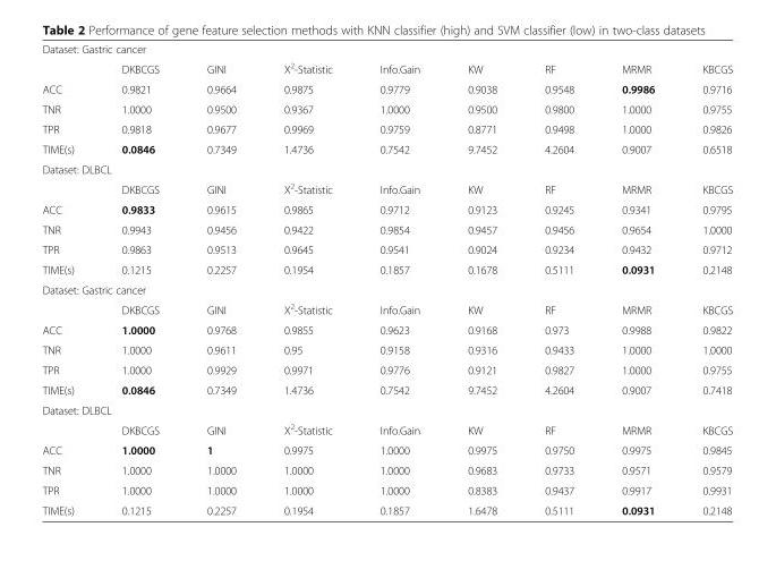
<table><tbody><tr><td colspan="9">Dataset: Gastric cancer</td></tr><tr><td></td><td>DKBCGS</td><td>GINI</td><td>Χ<sup>2</sup>-Statistic</td><td>Info.Gain</td><td>KW</td><td>RF</td><td>MRMR</td><td>KBCGS</td></tr><tr><td>ACC</td><td>0.9821</td><td>0.9664</td><td>0.9875</td><td>0.9779</td><td>0.9038</td><td>0.9548</td><td>0.9986</td><td>0.9716</td></tr><tr><td>TNR</td><td>1.0000</td><td>0.9500</td><td>0.9367</td><td>1.0000</td><td>0.9500</td><td>0.9800</td><td>1.0000</td><td>0.9755</td></tr><tr><td>TPR</td><td>0.9818</td><td>0.9677</td><td>0.9969</td><td>0.9759</td><td>0.8771</td><td>0.9498</td><td>1.0000</td><td>0.9826</td></tr><tr><td>TIME(s)</td><td>0.0846</td><td>0.7349</td><td>1.4736</td><td>0.7542</td><td>9.7452</td><td>4.2604</td><td>0.9007</td><td>0.6518</td></tr><tr><td colspan="9">Dataset: DLBCL</td></tr><tr><td></td><td>DKBCGS</td><td>GINI</td><td>Χ<sup>2</sup>-Statistic</td><td>Info.Gain</td><td>KW</td><td>RF</td><td>MRMR</td><td>KBCGS</td></tr><tr><td>ACC</td><td>0.9833</td><td>0.9615</td><td>0.9865</td><td>0.9712</td><td>0.9123</td><td>0.9245</td><td>0.9341</td><td>0.9795</td></tr><tr><td>TNR</td><td>0.9943</td><td>0.9456</td><td>0.9422</td><td>0.9854</td><td>0.9457</td><td>0.9456</td><td>0.9654</td><td>1.0000</td></tr><tr><td>TPR</td><td>0.9863</td><td>0.9513</td><td>0.9645</td><td>0.9541</td><td>0.9024</td><td>0.9234</td><td>0.9432</td><td>0.9712</td></tr><tr><td>TIME(s)</td><td>0.1215</td><td>0.2257</td><td>0.1954</td><td>0.1857</td><td>0.1678</td><td>0.5111</td><td>0.0931</td><td>0.2148</td></tr><tr><td colspan="9">Dataset: Gastric cancer</td></tr><tr><td></td><td>DKBCGS</td><td>GINI</td><td>Χ<sup>2</sup>-Statistic</td><td>Info.Gain</td><td>KW</td><td>RF</td><td>MRMR</td><td>KBCGS</td></tr><tr><td>ACC</td><td>1.0000</td><td>0.9768</td><td>0.9855</td><td>0.9623</td><td>0.9168</td><td>0.973</td><td>0.9988</td><td>0.9822</td></tr><tr><td>TNR</td><td>1.0000</td><td>0.9611</td><td>0.95</td><td>0.9158</td><td>0.9316</td><td>0.9433</td><td>1.0000</td><td>1.0000</td></tr><tr><td>TPR</td><td>1.0000</td><td>0.9929</td><td>0.9971</td><td>0.9776</td><td>0.9121</td><td>0.9827</td><td>1.0000</td><td>0.9755</td></tr><tr><td>TIME(s)</td><td>0.0846</td><td>0.7349</td><td>1.4736</td><td>0.7542</td><td>9.7452</td><td>4.2604</td><td>0.9007</td><td>0.7418</td></tr><tr><td colspan="9">Dataset: DLBCL</td></tr><tr><td></td><td>DKBCGS</td><td>GINI</td><td>Χ<sup>2</sup>-Statistic</td><td>Info.Gain</td><td>KW</td><td>RF</td><td>MRMR</td><td>KBCGS</td></tr><tr><td>ACC</td><td>1.0000</td><td>1</td><td>0.9975</td><td>1.0000</td><td>0.9975</td><td>0.9750</td><td>0.9975</td><td>0.9845</td></tr><tr><td>TNR</td><td>1.0000</td><td>1.0000</td><td>1.0000</td><td>1.0000</td><td>0.9683</td><td>0.9733</td><td>0.9571</td><td>0.9579</td></tr><tr><td>TPR</td><td>1.0000</td><td>1.0000</td><td>1.0000</td><td>1.0000</td><td>0.8383</td><td>0.9437</td><td>0.9917</td><td>0.9931</td></tr><tr><td>TIME(s)</td><td>0.1215</td><td>0.2257</td><td>0.1954</td><td>0.1857</td><td>1.6478</td><td>0.5111</td><td>0.0931</td><td>0.2148</td></tr></tbody></table>